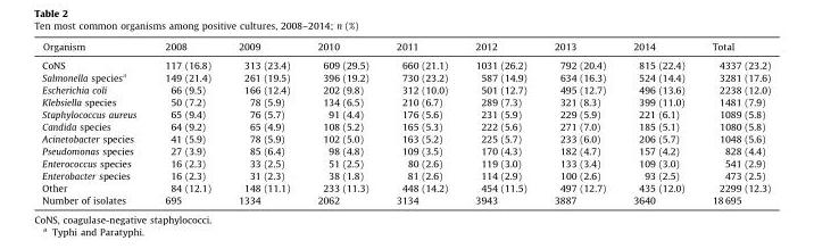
<table><thead><tr><td>Organism</td><td>2008</td><td>2009</td><td>2010</td><td>2011</td><td>2012</td><td>2013</td><td>2014</td><td>Total</td></tr></thead><tbody><tr><td>CoNS</td><td>117 (16.8)</td><td>313 (23.4)</td><td>609 (29.5)</td><td>660 (21.1)</td><td>1031 (26.2)</td><td>792 (20.4)</td><td>815 (22.4)</td><td>4337 (23.2)</td></tr><tr><td>Salmonella species<sup>a</sup></td><td>149 (21.4)</td><td>261 (19.5)</td><td>396 (19.2)</td><td>730 (23.2)</td><td>587 (14.9)</td><td>634 (16.3)</td><td>524 (14.4)</td><td>3281 (17.6)</td></tr><tr><td>Escherichia coli</td><td>66 (9.5)</td><td>166 (12.4)</td><td>202 (9.8)</td><td>312 (10.0)</td><td>501 (12.7)</td><td>495 (12.7)</td><td>496 (13.6)</td><td>2238 (12.0)</td></tr><tr><td>Klebsiella species</td><td>50 (7.2)</td><td>78 (5.9)</td><td>134 (6.5)</td><td>210 (6.7)</td><td>289 (7.3)</td><td>321 (8.3)</td><td>399 (11.0)</td><td>1481 (7.9)</td></tr><tr><td>Staphylococcus aureus</td><td>65 (9.4)</td><td>76 (5.7)</td><td>91 (4.4)</td><td>176 (5.6)</td><td>231 (5.9)</td><td>229 (5.9)</td><td>221 (6.1)</td><td>1089 (5.8)</td></tr><tr><td>Candida species</td><td>64 (9.2)</td><td>65 (4.9)</td><td>108 (5.2)</td><td>165 (5.3)</td><td>222 (5.6)</td><td>271 (7.0)</td><td>185 (5.1)</td><td>1080 (5.8)</td></tr><tr><td>Acinetobacter species</td><td>41 (5.9)</td><td>78 (5.9)</td><td>102 (5.0)</td><td>163 (5.2)</td><td>225 (5.7)</td><td>233 (6.0)</td><td>206 (5.7)</td><td>1048 (5.6)</td></tr><tr><td>Pseudomonas species</td><td>27 (3.9)</td><td>85 (6.4)</td><td>98 (4.8)</td><td>109 (3.5)</td><td>170 (4.3)</td><td>182 (4.7)</td><td>157 (4.2)</td><td>828 (4.4)</td></tr><tr><td>Enterococcus species</td><td>16 (2.3)</td><td>33 (2.5)</td><td>51 (2.5)</td><td>80 (2.6)</td><td>119 (3.0)</td><td>133 (3.4)</td><td>109 (3.0)</td><td>541 (2.9)</td></tr><tr><td>Enterobacter species</td><td>16 (2.3)</td><td>31 (2.3)</td><td>38 (1.8)</td><td>81 (2.6)</td><td>114 (2.9)</td><td>100 (2.6)</td><td>93 (2.5)</td><td>473 (2.5)</td></tr><tr><td>Other</td><td>84 (12.1)</td><td>148 (11.1)</td><td>233 (11.3)</td><td>448 (14.2)</td><td>454 (11.5)</td><td>497 (12.7)</td><td>435 (12.0)</td><td>2299 (12.3)</td></tr><tr><td>Number of isolates</td><td>695</td><td>1334</td><td>2062</td><td>3134</td><td>3943</td><td>3887</td><td>3640</td><td>18 695</td></tr></tbody></table>